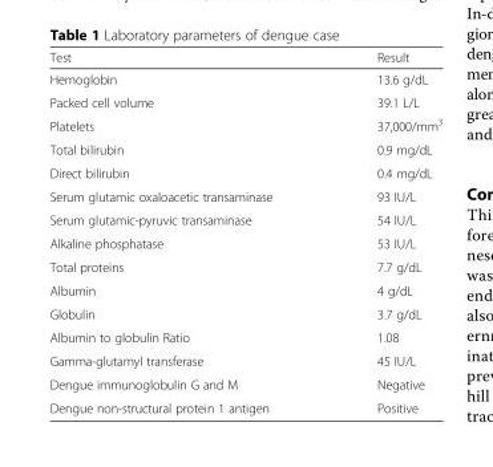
<table><thead><tr><td>Test</td><td>Result</td></tr></thead><tbody><tr><td>Hemoglobin</td><td>13.6 g/dL</td></tr><tr><td>Packed cell volume</td><td>39.1 L/L</td></tr><tr><td>Platelets</td><td>37,000/mm<sup>3</sup></td></tr><tr><td>Total bilirubin</td><td>0.9 mg/dL</td></tr><tr><td>Direct bilirubin</td><td>0.4 mg/dL</td></tr><tr><td>Serum glutamic oxaloacetic transaminase</td><td>93 IU/L</td></tr><tr><td>Serum glutamic-pyruvic transaminase</td><td>54 IU/L</td></tr><tr><td>Alkaline phosphatase</td><td>53 IU/L</td></tr><tr><td>Total proteins</td><td>7.7 g/dL</td></tr><tr><td>Albumin</td><td>4 g/dL</td></tr><tr><td>Globulin</td><td>3.7 g/dL</td></tr><tr><td>Albumin to globulin Ratio</td><td>1.08</td></tr><tr><td>Gamma-glutamyl transferase</td><td>45 IU/L</td></tr><tr><td>Dengue immunoglobulin G and M</td><td>Negative</td></tr><tr><td>Dengue non-structural protein 1 antigen</td><td>Positive</td></tr></tbody></table>